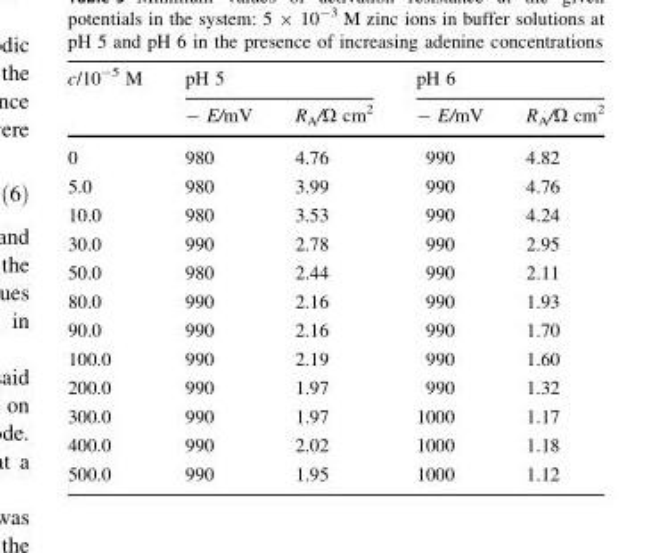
<table><thead><tr><td rowspan="2">c/10<sup>-5</sup> M</td><td colspan="2">pH 5</td><td colspan="2">pH 6</td></tr><tr><td>- E/mV</td><td>R<sub>A</sub>/Ω cm<sup>2</sup></td><td>- E/mV</td><td>R<sub>A</sub>/Ω cm<sup>2</sup></td></tr></thead><tbody><tr><td>0</td><td>980</td><td>4.76</td><td>990</td><td>4.82</td></tr><tr><td>5.0</td><td>980</td><td>3.99</td><td>990</td><td>4.76</td></tr><tr><td>10.0</td><td>980</td><td>3.53</td><td>990</td><td>4.24</td></tr><tr><td>30.0</td><td>990</td><td>2.78</td><td>990</td><td>2.95</td></tr><tr><td>50.0</td><td>980</td><td>2.44</td><td>990</td><td>2.11</td></tr><tr><td>80.0</td><td>990</td><td>2.16</td><td>990</td><td>1.93</td></tr><tr><td>90.0</td><td>990</td><td>2.16</td><td>990</td><td>1.70</td></tr><tr><td>100.0</td><td>990</td><td>2.19</td><td>990</td><td>1.60</td></tr><tr><td>200.0</td><td>990</td><td>1.97</td><td>990</td><td>1.32</td></tr><tr><td>300.0</td><td>990</td><td>1.97</td><td>1000</td><td>1.17</td></tr><tr><td>400.0</td><td>990</td><td>2.02</td><td>1000</td><td>1.18</td></tr><tr><td>500.0</td><td>990</td><td>1.95</td><td>1000</td><td>1.12</td></tr></tbody></table>